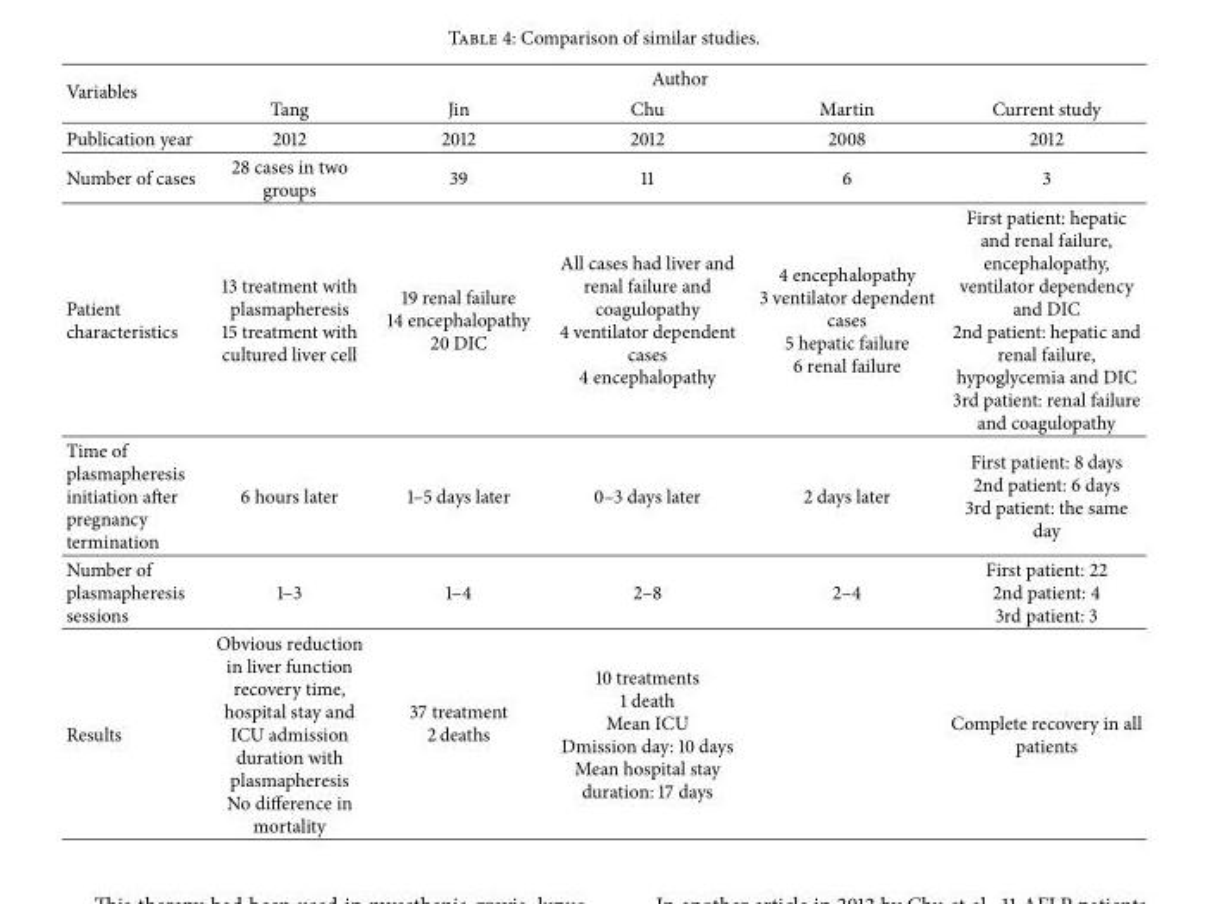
<table><thead><tr><td rowspan="2">Variables</td><td colspan="5">Author</td></tr><tr><td>Tang</td><td>Jin</td><td>Chu</td><td>Martin</td><td>Current study</td></tr></thead><tbody><tr><td>Publication year</td><td>2012</td><td>2012</td><td>2012</td><td>2008</td><td>2012</td></tr><tr><td>Number of cases</td><td>28 cases in two groups</td><td>39</td><td>11</td><td>6</td><td>3</td></tr><tr><td>Patient characteristics</td><td>13 treatment with plasmapheresis 15 treatment with cultured liver cell</td><td>19 renal failure 14 encephalopathy 20 DIC</td><td>All cases had liver and renal failure and coagulopathy 4 ventilator dependent cases 4 encephalopathy</td><td>4 encephalopathy 3 ventilator dependent cases 5 hepatic failure 6 renal failure</td><td>First patient: hepatic and renal failure, encephalopathy, ventilator dependency and DIC 2nd patient: hepatic and renal failure, hypoglycemia and DIC 3rd patient: renal failure and coagulopathy</td></tr><tr><td>Time of plasmapheresis initiation after pregnancy termination</td><td>6 hours later</td><td>1–5 days later</td><td>0–3 days later</td><td>2 days later</td><td>First patient: 8 days 2nd patient: 6 days 3rd patient: the same day</td></tr><tr><td>Number of plasmapheresis sessions</td><td>1–3</td><td>1–4</td><td>2–8</td><td>2–4</td><td>First patient: 22 2nd patient: 4 3rd patient: 3</td></tr><tr><td>Results</td><td>Obvious reduction in liver function recovery time, hospital stay and ICU admission duration with plasmapheresis No difference in mortality</td><td>37 treatment 2 deaths</td><td>10 treatments 1 death Mean ICU Dmission day: 10 days Mean hospital stay duration: 17 days</td><td></td><td>Complete recovery in all patients</td></tr></tbody></table>